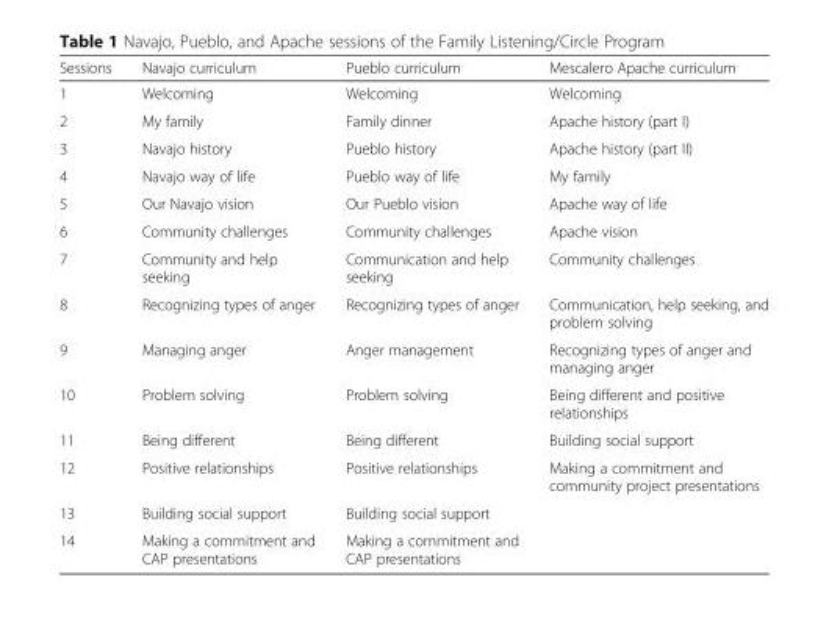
<table><thead><tr><td>Sessions</td><td>Navajo curriculum</td><td>Pueblo curriculum</td><td>Mescalero Apache curriculum</td></tr></thead><tbody><tr><td>1</td><td>Welcoming</td><td>Welcoming</td><td>Welcoming</td></tr><tr><td>2</td><td>My family</td><td>Family dinner</td><td>Apache history (part I)</td></tr><tr><td>3</td><td>Navajo history</td><td>Pueblo history</td><td>Apache history (part II)</td></tr><tr><td>4</td><td>Navajo way of life</td><td>Pueblo way of life</td><td>My family</td></tr><tr><td>5</td><td>Our Navajo vision</td><td>Our Pueblo vision</td><td>Apache way of life</td></tr><tr><td>6</td><td>Community challenges</td><td>Community challenges</td><td>Apache vision</td></tr><tr><td>7</td><td>Community and help seeking</td><td>Communication and help seeking</td><td>Community challenges</td></tr><tr><td>8</td><td>Recognizing types of anger</td><td>Recognizing types of anger</td><td>Communication, help seeking, and problem solving</td></tr><tr><td>9</td><td>Managing anger</td><td>Anger management</td><td>Recognizing types of anger and managing anger</td></tr><tr><td>10</td><td>Problem solving</td><td>Problem solving</td><td>Being different and positive relationships</td></tr><tr><td>11</td><td>Being different</td><td>Being different</td><td>Building social support</td></tr><tr><td>12</td><td>Positive relationships</td><td>Positive relationships</td><td>Making a commitment and community project presentations</td></tr><tr><td>13</td><td>Building social support</td><td>Building social support</td><td></td></tr><tr><td>14</td><td>Making a commitment and CAP presentations</td><td>Making a commitment and CAP presentations</td><td></td></tr></tbody></table>